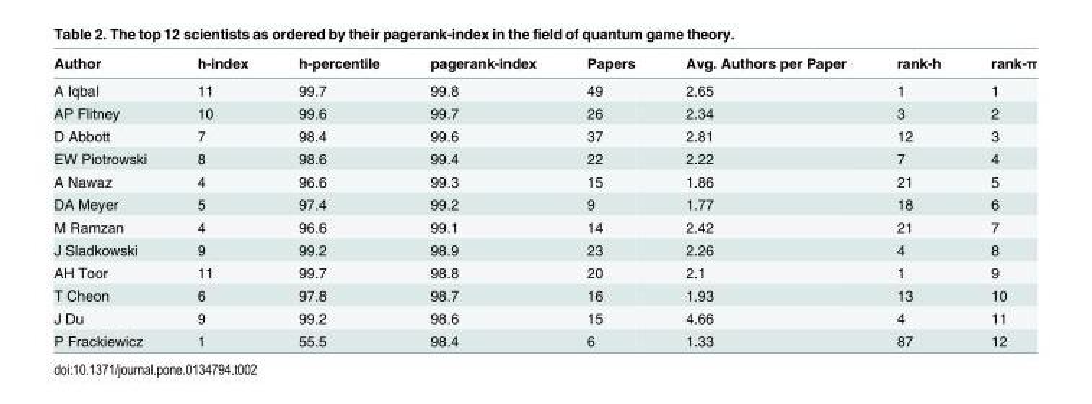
<table><thead><tr><td>Author</td><td>h-index</td><td>h-percentile</td><td>pagerank-index</td><td>Papers</td><td>Avg. Authors per Paper</td><td>rank-h</td><td>rank-π</td></tr></thead><tbody><tr><td>A Iqbal</td><td>11</td><td>99.7</td><td>99.8</td><td>49</td><td>2.65</td><td>1</td><td>1</td></tr><tr><td>AP Flitney</td><td>10</td><td>99.6</td><td>99.7</td><td>26</td><td>2.34</td><td>3</td><td>2</td></tr><tr><td>D Abbott</td><td>7</td><td>98.4</td><td>99.6</td><td>37</td><td>2.81</td><td>12</td><td>3</td></tr><tr><td>EW Piotrowski</td><td>8</td><td>98.6</td><td>99.4</td><td>22</td><td>2.22</td><td>7</td><td>4</td></tr><tr><td>A Nawaz</td><td>4</td><td>96.6</td><td>99.3</td><td>15</td><td>1.86</td><td>21</td><td>5</td></tr><tr><td>DA Meyer</td><td>5</td><td>97.4</td><td>99.2</td><td>9</td><td>1.77</td><td>18</td><td>6</td></tr><tr><td>M Ramzan</td><td>4</td><td>96.6</td><td>99.1</td><td>14</td><td>2.42</td><td>21</td><td>7</td></tr><tr><td>J Sladkowski</td><td>9</td><td>99.2</td><td>98.9</td><td>23</td><td>2.26</td><td>4</td><td>8</td></tr><tr><td>AH Toor</td><td>11</td><td>99.7</td><td>98.8</td><td>20</td><td>2.1</td><td>1</td><td>9</td></tr><tr><td>T Cheon</td><td>6</td><td>97.8</td><td>98.7</td><td>16</td><td>1.93</td><td>13</td><td>10</td></tr><tr><td>J Du</td><td>9</td><td>99.2</td><td>98.6</td><td>15</td><td>4.66</td><td>4</td><td>11</td></tr><tr><td>P Frackiewicz</td><td>1</td><td>55.5</td><td>98.4</td><td>6</td><td>1.33</td><td>87</td><td>12</td></tr></tbody></table>